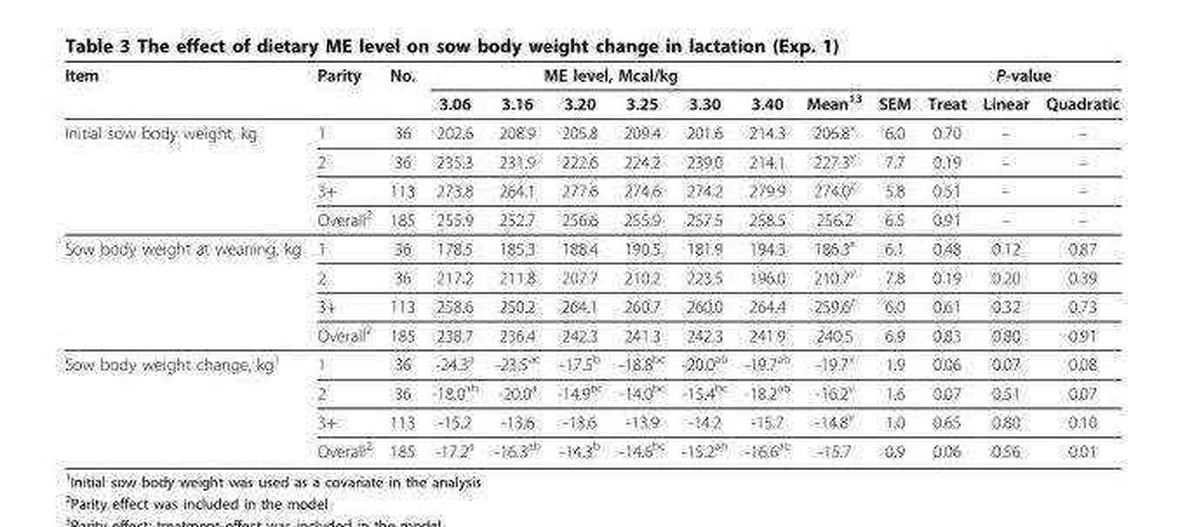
<table><thead><tr><td rowspan="2">Item</td><td rowspan="2">Parity</td><td rowspan="2">No.</td><td colspan="6">ME level, Mcal/kg</td><td rowspan="2">Mean<sup>13</sup></td><td rowspan="2">SEM</td><td colspan="3">P-value</td></tr><tr><td>3.06</td><td>3.16</td><td>3.20</td><td>3.25</td><td>3.30</td><td>3.40</td><td>Treat</td><td>Linear</td><td>Quadratic</td></tr></thead><tbody><tr><td rowspan="4">Initial sow body weight, kg</td><td>1</td><td>36</td><td>202.6</td><td>208.9</td><td>205.8</td><td>209.4</td><td>201.6</td><td>214.3</td><td>206.8<sup>x</sup></td><td>6.0</td><td>0.70</td><td>–</td><td>–</td></tr><tr><td>2</td><td>36</td><td>235.3</td><td>231.9</td><td>222.6</td><td>224.2</td><td>239.0</td><td>214.1</td><td>227.3<sup>y</sup></td><td>7.7</td><td>0.19</td><td>–</td><td>–</td></tr><tr><td>3+</td><td>113</td><td>273.8</td><td>264.1</td><td>277.6</td><td>274.6</td><td>274.2</td><td>279.9</td><td>274.0<sup>z</sup></td><td>5.8</td><td>0.51</td><td>–</td><td>–</td></tr><tr><td>Overall<sup>2</sup></td><td>185</td><td>255.9</td><td>252.7</td><td>256.6</td><td>255.9</td><td>257.5</td><td>258.5</td><td>256.2</td><td>6.5</td><td>0.91</td><td>–</td><td>–</td></tr><tr><td rowspan="4">Sow body weight at weaning, kg</td><td>1</td><td>36</td><td>178.5</td><td>185.3</td><td>188.4</td><td>190.5</td><td>181.9</td><td>194.3</td><td>186.3<sup>x</sup></td><td>6.1</td><td>0.48</td><td>0.12</td><td>0.87</td></tr><tr><td>2</td><td>36</td><td>217.2</td><td>211.8</td><td>207.7</td><td>210.2</td><td>223.5</td><td>196.0</td><td>210.7<sup>y</sup></td><td>7.8</td><td>0.19</td><td>0.20</td><td>0.39</td></tr><tr><td>3+</td><td>113</td><td>258.6</td><td>250.2</td><td>264.1</td><td>260.7</td><td>260.0</td><td>264.4</td><td>259.6<sup>z</sup></td><td>6.0</td><td>0.61</td><td>0.32</td><td>0.73</td></tr><tr><td>Overall<sup>2</sup></td><td>185</td><td>238.7</td><td>236.4</td><td>242.3</td><td>241.3</td><td>242.3</td><td>241.9</td><td>240.5</td><td>6.9</td><td>0.83</td><td>0.80</td><td>0.91</td></tr><tr><td rowspan="4">Sow body weight change, kg<sup>1</sup></td><td>1</td><td>36</td><td>-24.3<sup>a</sup></td><td>-23.5<sup>ac</sup></td><td>-17.5<sup>b</sup></td><td>-18.8<sup>bc</sup></td><td>-20.0<sup>ab</sup></td><td>-19.7<sup>ab</sup></td><td>-19.7<sup>x</sup></td><td>1.9</td><td>0.06</td><td>0.07</td><td>0.08</td></tr><tr><td>2</td><td>36</td><td>-18.0<sup>ab</sup></td><td>-20.0<sup>a</sup></td><td>-14.9<sup>bc</sup></td><td>-14.0<sup>bc</sup></td><td>-15.4<sup>bc</sup></td><td>-18.2<sup>ab</sup></td><td>-16.2<sup>y</sup></td><td>1.6</td><td>0.07</td><td>0.51</td><td>0.07</td></tr><tr><td>3+</td><td>113</td><td>-15.2</td><td>-13.6</td><td>-13.6</td><td>-13.9</td><td>-14.2</td><td>-15.7</td><td>-14.8<sup>y</sup></td><td>1.0</td><td>0.65</td><td>0.80</td><td>0.10</td></tr><tr><td>Overall<sup>2</sup></td><td>185</td><td>-17.2<sup>a</sup></td><td>-16.3<sup>ab</sup></td><td>-14.3<sup>b</sup></td><td>-14.6<sup>bc</sup></td><td>-15.2<sup>ab</sup></td><td>-16.6<sup>ac</sup></td><td>-15.7</td><td>0.9</td><td>0.06</td><td>0.56</td><td>0.01</td></tr></tbody></table>